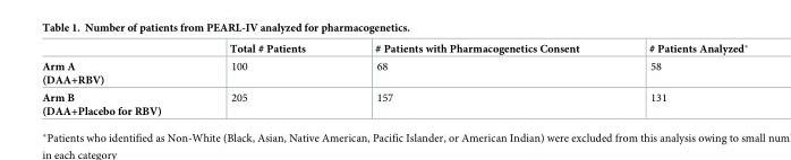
<table><thead><tr><td></td><td>Total # Patients</td><td># Patients with Pharmacogenetics Consent</td><td># Patients Analyzed*</td></tr></thead><tbody><tr><td>Arm A (DAA+RBV)</td><td>100</td><td>68</td><td>58</td></tr><tr><td>Arm B (DAA+Placebo for RBV)</td><td>205</td><td>157</td><td>131</td></tr></tbody></table>